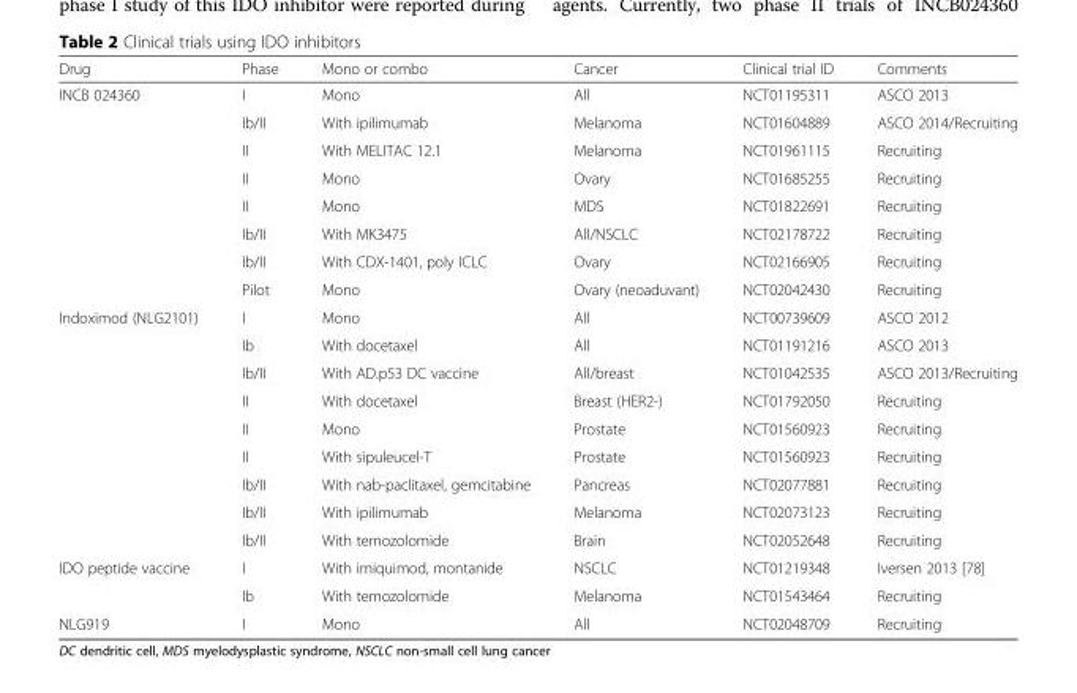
<table><thead><tr><td>Drug</td><td>Phase</td><td>Mono or combo</td><td>Cancer</td><td>Clinical trial ID</td><td>Comments</td></tr></thead><tbody><tr><td rowspan="8">INCB 024360</td><td>I</td><td>Mono</td><td>All</td><td>NCT01195311</td><td>ASCO 2013</td></tr><tr><td>Ib/II</td><td>With ipilimumab</td><td>Melanoma</td><td>NCT01604889</td><td>ASCO 2014/Recruiting</td></tr><tr><td>II</td><td>With MELITAC 12.1</td><td>Melanoma</td><td>NCT01961115</td><td>Recruiting</td></tr><tr><td>II</td><td>Mono</td><td>Ovary</td><td>NCT01685255</td><td>Recruiting</td></tr><tr><td>II</td><td>Mono</td><td>MDS</td><td>NCT01822691</td><td>Recruiting</td></tr><tr><td>Ib/II</td><td>With MK3475</td><td>All/NSCLC</td><td>NCT02178722</td><td>Recruiting</td></tr><tr><td>Ib/II</td><td>With CDX-1401, poly ICLC</td><td>Ovary</td><td>NCT02166905</td><td>Recruiting</td></tr><tr><td>Pilot</td><td>Mono</td><td>Ovary (neoaduvant)</td><td>NCT02042430</td><td>Recruiting</td></tr><tr><td rowspan="9">Indoximod (NLG2101)</td><td>I</td><td>Mono</td><td>All</td><td>NCT00739609</td><td>ASCO 2012</td></tr><tr><td>Ib</td><td>With docetaxel</td><td>All</td><td>NCT01191216</td><td>ASCO 2013</td></tr><tr><td>Ib/II</td><td>With AD.p53 DC vaccine</td><td>All/breast</td><td>NCT01042535</td><td>ASCO 2013/Recruiting</td></tr><tr><td>II</td><td>With docetaxel</td><td>Breast (HER2-)</td><td>NCT01792050</td><td>Recruiting</td></tr><tr><td>II</td><td>Mono</td><td>Prostate</td><td>NCT01560923</td><td>Recruiting</td></tr><tr><td>II</td><td>With sipuleucel-T</td><td>Prostate</td><td>NCT01560923</td><td>Recruiting</td></tr><tr><td>Ib/II</td><td>With nab-paclitaxel, gemcitabine</td><td>Pancreas</td><td>NCT02077881</td><td>Recruiting</td></tr><tr><td>Ib/II</td><td>With ipilimumab</td><td>Melanoma</td><td>NCT02073123</td><td>Recruiting</td></tr><tr><td>Ib/II</td><td>With temozolomide</td><td>Brain</td><td>NCT02052648</td><td>Recruiting</td></tr><tr><td rowspan="2">IDO peptide vaccine</td><td>I</td><td>With imiquimod, montanide</td><td>NSCLC</td><td>NCT01219348</td><td>Iversen 2013 [78]</td></tr><tr><td>Ib</td><td>With temozolomide</td><td>Melanoma</td><td>NCT01543464</td><td>Recruiting</td></tr><tr><td>NLG919</td><td>I</td><td>Mono</td><td>All</td><td>NCT02048709</td><td>Recruiting</td></tr></tbody></table>